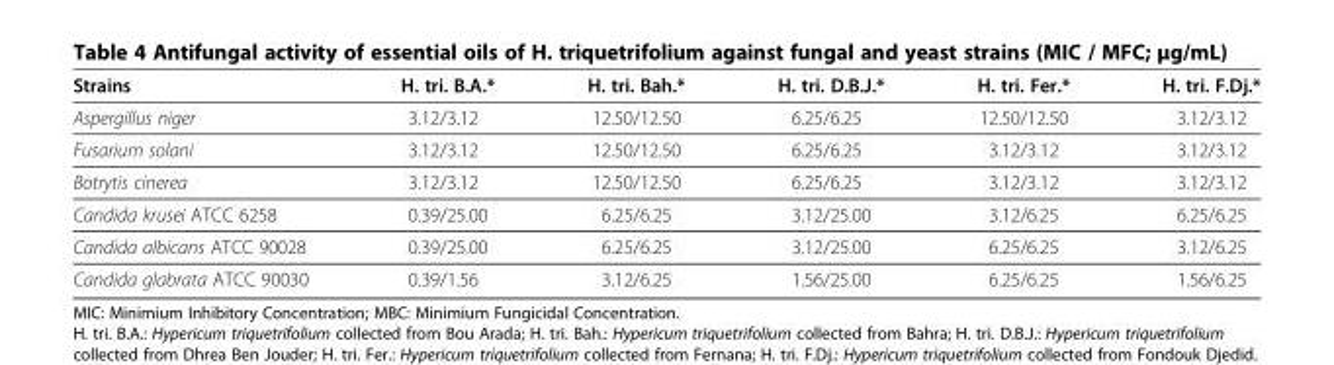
<table><thead><tr><td>Strains</td><td>H. tri. B.A.*</td><td>H. tri. Bah.*</td><td>H. tri. D.B.J.*</td><td>H. tri. Fer.*</td><td>H. tri. F.Dj.*</td></tr></thead><tbody><tr><td>Aspergillus niger</td><td>3.12/3.12</td><td>12.50/12.50</td><td>6.25/6.25</td><td>12.50/12.50</td><td>3.12/3.12</td></tr><tr><td>Fusarium solani</td><td>3.12/3.12</td><td>12.50/12.50</td><td>6.25/6.25</td><td>3.12/3.12</td><td>3.12/3.12</td></tr><tr><td>Botrytis cinerea</td><td>3.12/3.12</td><td>12.50/12.50</td><td>6.25/6.25</td><td>3.12/3.12</td><td>3.12/3.12</td></tr><tr><td>Candida krusei ATCC 6258</td><td>0.39/25.00</td><td>6.25/6.25</td><td>3.12/25.00</td><td>3.12/6.25</td><td>6.25/6.25</td></tr><tr><td>Candida albicans ATCC 90028</td><td>0.39/25.00</td><td>6.25/6.25</td><td>3.12/25.00</td><td>6.25/6.25</td><td>3.12/6.25</td></tr><tr><td>Candida glabrata ATCC 90030</td><td>0.39/1.56</td><td>3.12/6.25</td><td>1.56/25.00</td><td>6.25/6.25</td><td>1.56/6.25</td></tr></tbody></table>